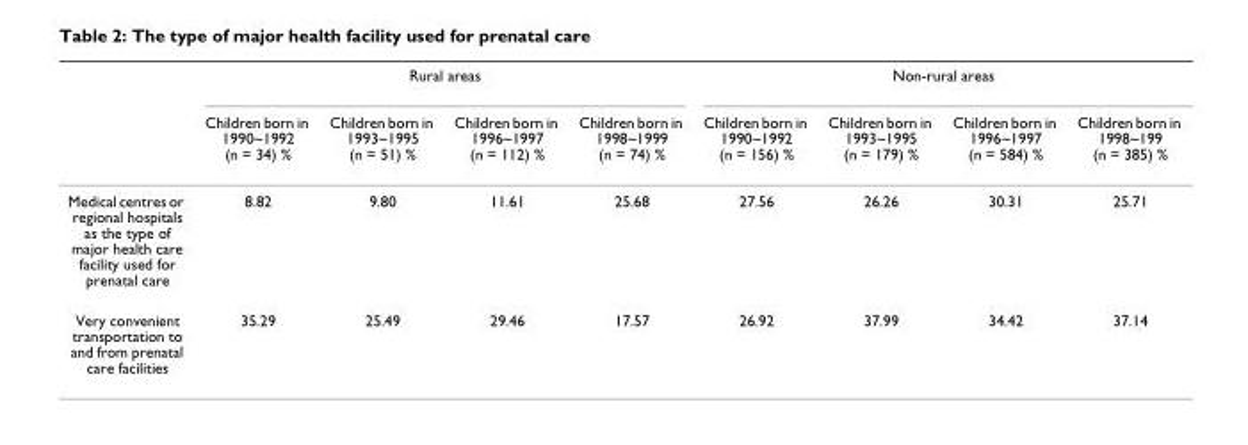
<table><thead><tr><td rowspan="2"></td><td colspan="4">Rural areas</td><td colspan="4">Non-rural areas</td></tr><tr><td>Children born in 1990~1992 (n = 34) %</td><td>Children born in 1993~1995 (n = 51) %</td><td>Children born in 1996~1997 (n = 112) %</td><td>Children born in 1998~1999 (n = 74) %</td><td>Children born in 1990~1992 (n = 156) %</td><td>Children born in 1993~1995 (n = 179) %</td><td>Children born in 1996~1997 (n = 584) %</td><td>Children born in 1998~199 (n = 385) %</td></tr></thead><tbody><tr><td>Medical centres or regional hospitals as the type of major health care facility used for prenatal care</td><td>8.82</td><td>9.80</td><td>11.61</td><td>25.68</td><td>27.56</td><td>26.26</td><td>30.31</td><td>25.71</td></tr><tr><td>Very convenient transportation to and from prenatal care facilities</td><td>35.29</td><td>25.49</td><td>29.46</td><td>17.57</td><td>26.92</td><td>37.99</td><td>34.42</td><td>37.14</td></tr></tbody></table>